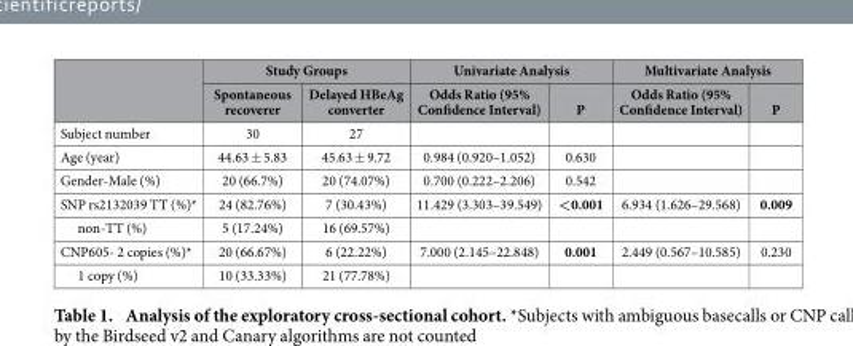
<table><thead><tr><td rowspan="2"></td><td colspan="2">Study Groups</td><td colspan="2">Univariate Analysis</td><td colspan="2">Multivariate Analysis</td></tr><tr><td>Spontaneous recoverer</td><td>Delayed HBeAg converter</td><td>Odds Ratio (95% Confidence Interval)</td><td>P</td><td>Odds Ratio (95% Confidence Interval)</td><td>P</td></tr></thead><tbody><tr><td>Subject number</td><td>30</td><td>27</td><td></td><td></td><td></td><td></td></tr><tr><td>Age (year)</td><td>44.63 ± 5.83</td><td>45.63 ± 9.72</td><td>0.984 (0.920–1.052)</td><td>0.630</td><td></td><td></td></tr><tr><td>Gender-Male (%)</td><td>20 (66.7%)</td><td>20 (74.07%)</td><td>0.700 (0.222–2.206)</td><td>0.542</td><td></td><td></td></tr><tr><td>SNP rs2132039 TT (%)*</td><td>24 (82.76%)</td><td>7 (30.43%)</td><td>11.429 (3.303–39.549)</td><td>&lt;0.001</td><td>6.934 (1.626–29.568)</td><td>0.009</td></tr><tr><td>non-TT (%)</td><td>5 (17.24%)</td><td>16 (69.57%)</td><td></td><td></td><td></td><td></td></tr><tr><td>CNP605- 2 copies (%)*</td><td>20 (66.67%)</td><td>6 (22.22%)</td><td>7.000 (2.145–22.848)</td><td>0.001</td><td>2.449 (0.567–10.585)</td><td>0.230</td></tr><tr><td>1 copy (%)</td><td>10 (33.33%)</td><td>21 (77.78%)</td><td></td><td></td><td></td><td></td></tr></tbody></table>